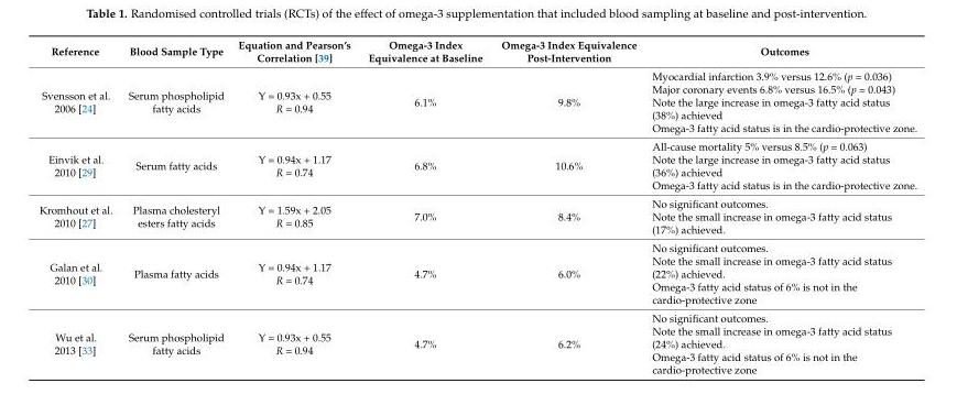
<table><thead><tr><td>Reference</td><td>Blood Sample Type</td><td>Equation and Pearson’s Correlation [39]</td><td>Omega-3 Index Equivalence at Baseline</td><td>Omega-3 Index Equivalence Post-Intervention</td><td>Outcomes</td></tr></thead><tbody><tr><td>Svensson et al. 2006 [24]</td><td>Serum phospholipid fatty acids</td><td>Y = 0.93x + 0.55 R = 0.94</td><td>6.1%</td><td>9.8%</td><td>Myocardial infarction 3.9% versus 12.6% (p = 0.036) Major coronary events 6.8% versus 16.5% (p = 0.043) Note the large increase in omega-3 fatty acid status (38%) achieved Omega-3 fatty acid status is in the cardio-protective zone.</td></tr><tr><td>Einvik et al. 2010 [29]</td><td>Serum fatty acids</td><td>Y = 0.94x + 1.17 R = 0.74</td><td>6.8%</td><td>10.6%</td><td>All-cause mortality 5% versus 8.5% (p = 0.063) Note the large increase in omega-3 fatty acid status (36%) achieved Omega-3 fatty acid status is in the cardio-protective zone.</td></tr><tr><td>Kromhout et al. 2010 [27]</td><td>Plasma cholesteryl esters fatty acids</td><td>Y = 1.59x + 2.05 R = 0.85</td><td>7.0%</td><td>8.4%</td><td>No significant outcomes. Note the small increase in omega-3 fatty acid status (17%) achieved.</td></tr><tr><td>Galan et al. 2010 [30]</td><td>Plasma fatty acids</td><td>Y = 0.94x + 1.17 R = 0.74</td><td>4.7%</td><td>6.0%</td><td>No significant outcomes. Note the small increase in omega-3 fatty acid status (22%) achieved. Omega-3 fatty acid status of 6% is not in the cardio-protective zone</td></tr><tr><td>Wu et al. 2013 [33]</td><td>Serum phospholipid fatty acids</td><td>Y = 0.93x + 0.55 R = 0.94</td><td>4.7%</td><td>6.2%</td><td>No significant outcomes. Note the small increase in omega-3 fatty acid status (24%) achieved. Omega-3 fatty acid status of 6% is not in the cardio-protective zone</td></tr></tbody></table>